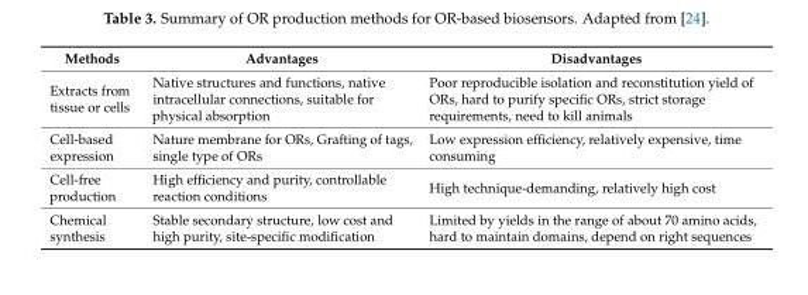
<table><thead><tr><td>Methods</td><td>Advantages</td><td>Disadvantages</td></tr></thead><tbody><tr><td>Extracts from tissue or cells</td><td>Native structures and functions, native intracellular connections, suitable for physical absorption</td><td>Poor reproducible isolation and reconstitution yield of ORs, hard to purify specific ORs, strict storage requirements, need to kill animals</td></tr><tr><td>Cell-based expression</td><td>Nature membrane for ORs, Grafting of tags, single type of ORs</td><td>Low expression efficiency, relatively expensive, time consuming</td></tr><tr><td>Cell-free production</td><td>High efficiency and purity, controllable reaction conditions</td><td>High technique-demanding, relatively high cost</td></tr><tr><td>Chemical synthesis</td><td>Stable secondary structure, low cost and high purity, site-specific modification</td><td>Limited by yields in the range of about 70 amino acids, hard to maintain domains, depend on right sequences</td></tr></tbody></table>